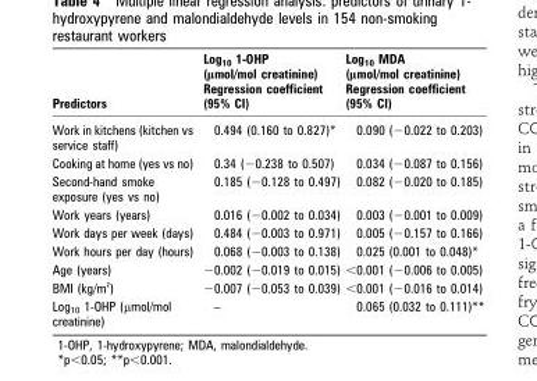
<table><thead><tr><td>Predictors</td><td>Log<sub>10</sub> 1-OHP (μmol/mol creatinine) Regression coefficient (95% CI)</td><td>Log<sub>10</sub> MDA (μmol/mol creatinine) Regression coefficient (95% CI)</td></tr></thead><tbody><tr><td>Work in kitchens (kitchen vs service staff)</td><td>0.494 (0.160 to 0.827)*</td><td>0.090 (−0.022 to 0.203)</td></tr><tr><td>Cooking at home (yes vs no)</td><td>0.34 (−0.238 to 0.507)</td><td>0.034 (−0.087 to 0.156)</td></tr><tr><td>Second-hand smoke exposure (yes vs no)</td><td>0.185 (−0.128 to 0.497)</td><td>0.082 (−0.020 to 0.185)</td></tr><tr><td>Work years (years)</td><td>0.016 (−0.002 to 0.034)</td><td>0.003 (−0.001 to 0.009)</td></tr><tr><td>Work days per week (days)</td><td>0.484 (−0.003 to 0.971)</td><td>0.005 (−0.157 to 0.166)</td></tr><tr><td>Work hours per day (hours)</td><td>0.068 (−0.003 to 0.138)</td><td>0.025 (0.001 to 0.048)*</td></tr><tr><td>Age (years)</td><td>−0.002 (−0.019 to 0.015)</td><td>&lt;0.001 (−0.006 to 0.005)</td></tr><tr><td>BMI (kg/m <sup>2</sup>)</td><td>−0.007 (−0.053 to 0.039)</td><td>&lt;0.001 (−0.016 to 0.014)</td></tr><tr><td>Log<sub>10</sub> 1-OHP (μmol/mol creatinine)</td><td>–</td><td>0.065 (0.032 to 0.111)**</td></tr></tbody></table>